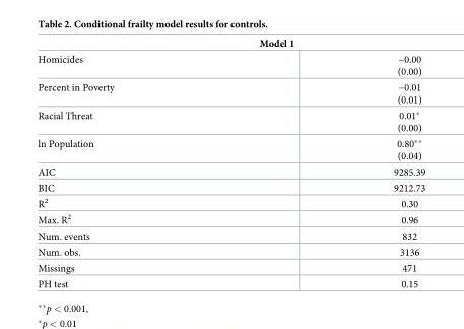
<table><thead><tr><td colspan="2">Model 1</td></tr><tr><td>Homicides</td><td>−0.00 (0.00)</td></tr></thead><tbody><tr><td>Percent in Poverty</td><td>−0.01 (0.01)</td></tr><tr><td>Racial Threat</td><td>0.01* (0.00)</td></tr><tr><td>ln Population</td><td>0.80** (0.04)</td></tr><tr><td>AIC</td><td>9285.39</td></tr><tr><td>BIC</td><td>9212.73</td></tr><tr><td>R<sup>2</sup></td><td>0.30</td></tr><tr><td>Max. R<sup>2</sup></td><td>0.96</td></tr><tr><td>Num. events</td><td>832</td></tr><tr><td>Num. obs.</td><td>3136</td></tr><tr><td>Missings</td><td>471</td></tr><tr><td>PH test</td><td>0.15</td></tr></tbody></table>